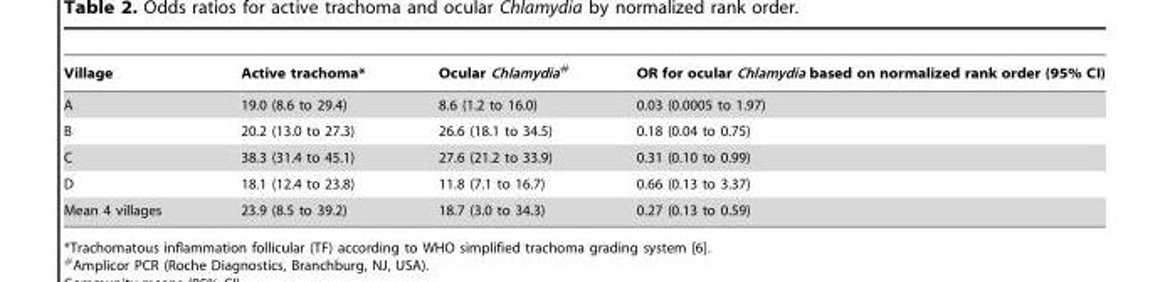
<table><thead><tr><td>Village</td><td>Active trachoma*</td><td>Ocular Chlamydia#</td><td>OR for ocular Chlamydia based on normalized rank order (95% CI)</td></tr></thead><tbody><tr><td>A</td><td>19.0 (8.6 to 29.4)</td><td>8.6 (1.2 to 16.0)</td><td>0.03 (0.0005 to 1.97)</td></tr><tr><td>B</td><td>20.2 (13.0 to 27.3)</td><td>26.6 (18.1 to 34.5)</td><td>0.18 (0.04 to 0.75)</td></tr><tr><td>C</td><td>38.3 (31.4 to 45.1)</td><td>27.6 (21.2 to 33.9)</td><td>0.31 (0.10 to 0.99)</td></tr><tr><td>D</td><td>18.1 (12.4 to 23.8)</td><td>11.8 (7.1 to 16.7)</td><td>0.66 (0.13 to 3.37)</td></tr><tr><td>Mean 4 villages</td><td>23.9 (8.5 to 39.2)</td><td>18.7 (3.0 to 34.3)</td><td>0.27 (0.13 to 0.59)</td></tr></tbody></table>